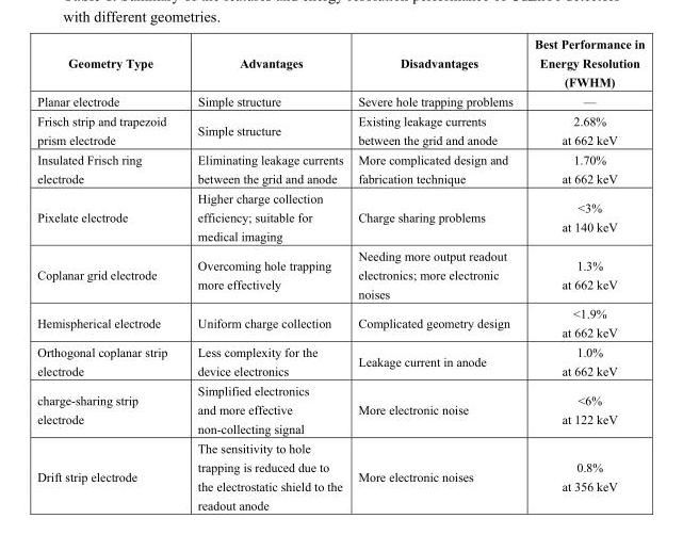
<table><thead><tr><td>Geometry Type</td><td>Advantages</td><td>Disadvantages</td><td>Best Performance in Energy Resolution (FWHM)</td></tr></thead><tbody><tr><td>Planar electrode</td><td>Simple structure</td><td>Severe hole trapping problems</td><td>—</td></tr><tr><td>Frisch strip and trapezoid prism electrode</td><td>Simple structure</td><td>Existing leakage currents between the grid and anode</td><td>2.68% at 662 keV</td></tr><tr><td>Insulated Frisch ring electrode</td><td>Eliminating leakage currents between the grid and anode</td><td>More complicated design and fabrication technique</td><td>1.70% at 662 keV</td></tr><tr><td>Pixelate electrode</td><td>Higher charge collection efficiency; suitable for medical imaging</td><td>Charge sharing problems</td><td>&lt;3% at 140 keV</td></tr><tr><td>Coplanar grid electrode</td><td>Overcoming hole trapping more effectively</td><td>Needing more output readout electronics; more electronic noises</td><td>1.3% at 662 keV</td></tr><tr><td>Hemispherical electrode</td><td>Uniform charge collection</td><td>Complicated geometry design</td><td>&lt;1.9% at 662 keV</td></tr><tr><td>Orthogonal coplanar strip electrode</td><td>Less complexity for the device electronics</td><td>Leakage current in anode</td><td>1.0% at 662 keV</td></tr><tr><td>charge-sharing strip electrode</td><td>Simplified electronics and more effective non-collecting signal</td><td>More electronic noise</td><td>&lt;6% at 122 keV</td></tr><tr><td>Drift strip electrode</td><td>The sensitivity to hole trapping is reduced due to the electrostatic shield to the readout anode</td><td>More electronic noises</td><td>0.8% at 356 keV</td></tr></tbody></table>